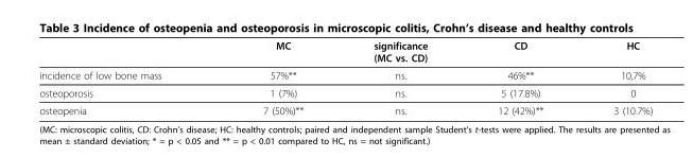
<table><thead><tr><td></td><td>MC</td><td>significance (MC vs. CD)</td><td>CD</td><td>HC</td></tr></thead><tbody><tr><td>incidence of low bone mass</td><td>57%**</td><td>ns.</td><td>46%**</td><td>10,7%</td></tr><tr><td>osteoporosis</td><td>1 (7%)</td><td>ns.</td><td>5 (17.8%)</td><td>0</td></tr><tr><td>osteopenia</td><td>7 (50%)**</td><td>ns.</td><td>12 (42%)**</td><td>3 (10.7%)</td></tr></tbody></table>